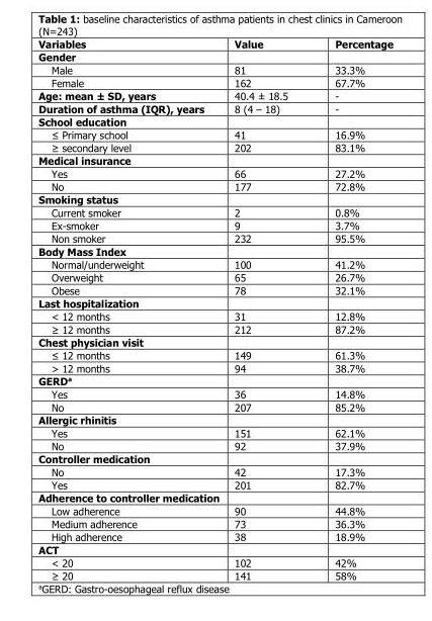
<table><thead><tr><td>Variables</td><td>Value</td><td>Percentage</td></tr></thead><tbody><tr><td colspan="3">Gender</td></tr><tr><td>Male</td><td>81</td><td>33.3%</td></tr><tr><td>Female</td><td>162</td><td>67.7%</td></tr><tr><td>Age: mean ± SD, years</td><td>40.4 ± 18.5</td><td>-</td></tr><tr><td>Duration of asthma (IQR), years</td><td>8 (4 – 18)</td><td>-</td></tr><tr><td colspan="3">School education</td></tr><tr><td>≤ Primary school</td><td>41</td><td>16.9%</td></tr><tr><td>≥ secondary level</td><td>202</td><td>83.1%</td></tr><tr><td colspan="3">Medical insurance</td></tr><tr><td>Yes</td><td>66</td><td>27.2%</td></tr><tr><td>No</td><td>177</td><td>72.8%</td></tr><tr><td colspan="3">Smoking status</td></tr><tr><td>Current smoker</td><td>2</td><td>0.8%</td></tr><tr><td>Ex-smoker</td><td>9</td><td>3.7%</td></tr><tr><td>Non smoker</td><td>232</td><td>95.5%</td></tr><tr><td colspan="3">Body Mass Index</td></tr><tr><td>Normal/underweight</td><td>100</td><td>41.2%</td></tr><tr><td>Overweight</td><td>65</td><td>26.7%</td></tr><tr><td>Obese</td><td>78</td><td>32.1%</td></tr><tr><td colspan="3">Last hospitalization</td></tr><tr><td>&lt; 12 months</td><td>31</td><td>12.8%</td></tr><tr><td>≥ 12 months</td><td>212</td><td>87.2%</td></tr><tr><td colspan="3">Chest physician visit</td></tr><tr><td>≤ 12 months</td><td>149</td><td>61.3%</td></tr><tr><td>&gt; 12 months</td><td>94</td><td>38.7%</td></tr><tr><td colspan="3">GERD<sup>a</sup></td></tr><tr><td>Yes</td><td>36</td><td>14.8%</td></tr><tr><td>No</td><td>207</td><td>85.2%</td></tr><tr><td colspan="3">Allergic rhinitis</td></tr><tr><td>Yes</td><td>151</td><td>62.1%</td></tr><tr><td>No</td><td>92</td><td>37.9%</td></tr><tr><td colspan="3">Controller medication</td></tr><tr><td>No</td><td>42</td><td>17.3%</td></tr><tr><td>Yes</td><td>201</td><td>82.7%</td></tr><tr><td colspan="3">Adherence to controller medication</td></tr><tr><td>Low adherence</td><td>90</td><td>44.8%</td></tr><tr><td>Medium adherence</td><td>73</td><td>36.3%</td></tr><tr><td>High adherence</td><td>38</td><td>18.9%</td></tr><tr><td colspan="3">ACT</td></tr><tr><td>&lt; 20</td><td>102</td><td>42%</td></tr><tr><td>≥ 20</td><td>141</td><td>58%</td></tr></tbody></table>